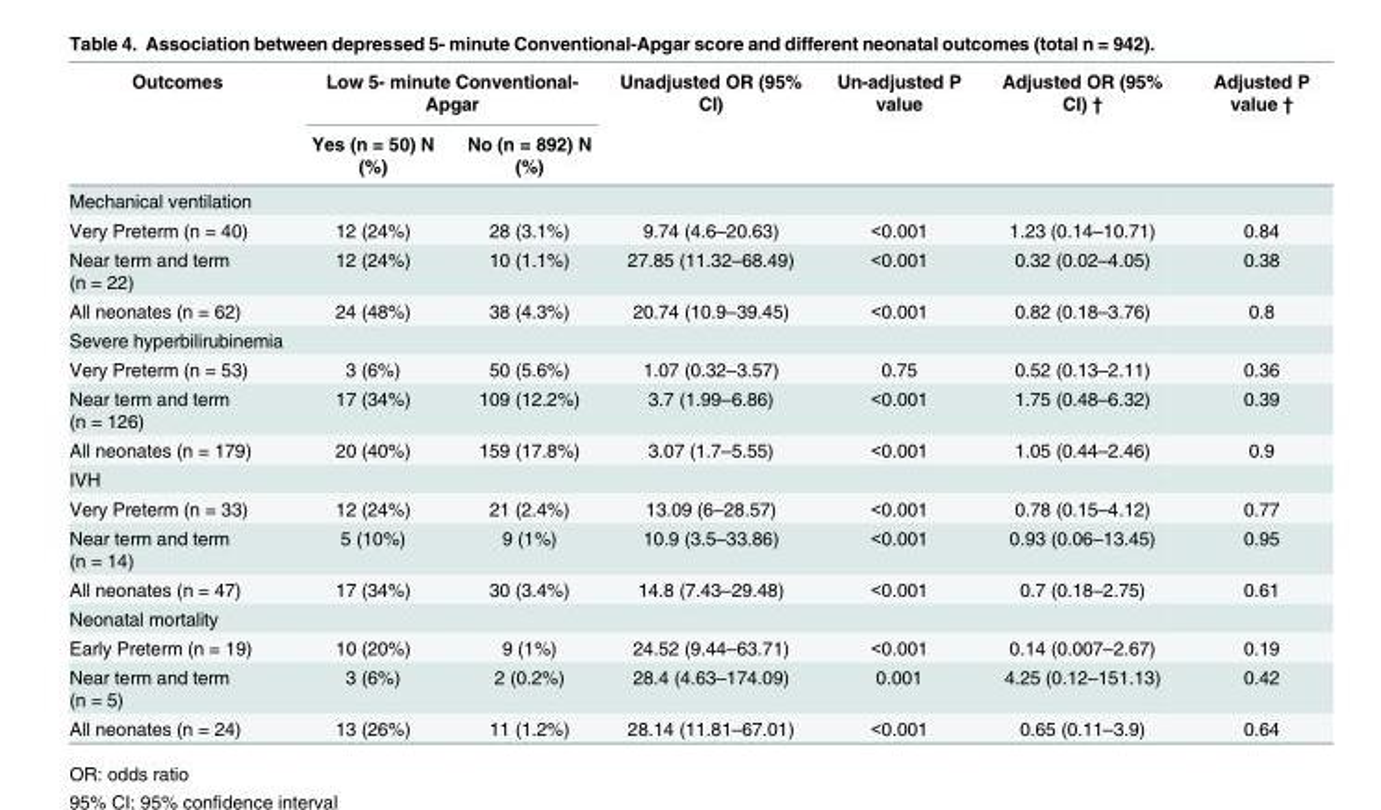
<table><thead><tr><td rowspan="2">Outcomes</td><td colspan="2">Low 5- minute Conventional- Apgar</td><td rowspan="2">Unadjusted OR (95% CI)</td><td rowspan="2">Un-adjusted P value</td><td rowspan="2">Adjusted OR (95% CI) †</td><td rowspan="2">Adjusted P value †</td></tr><tr><td>Yes (n = 50) N (%)</td><td>No (n = 892) N (%)</td></tr></thead><tbody><tr><td colspan="7">Mechanical ventilation</td></tr><tr><td>Very Preterm (n = 40)</td><td>12 (24%)</td><td>28 (3.1%)</td><td>9.74 (4.6–20.63)</td><td>&lt;0.001</td><td>1.23 (0.14–10.71)</td><td>0.84</td></tr><tr><td>Near term and term (n = 22)</td><td>12 (24%)</td><td>10 (1.1%)</td><td>27.85 (11.32–68.49)</td><td>&lt;0.001</td><td>0.32 (0.02–4.05)</td><td>0.38</td></tr><tr><td>All neonates (n = 62)</td><td>24 (48%)</td><td>38 (4.3%)</td><td>20.74 (10.9–39.45)</td><td>&lt;0.001</td><td>0.82 (0.18–3.76)</td><td>0.8</td></tr><tr><td colspan="7">Severe hyperbilirubinemia</td></tr><tr><td>Very Preterm (n = 53)</td><td>3 (6%)</td><td>50 (5.6%)</td><td>1.07 (0.32–3.57)</td><td>0.75</td><td>0.52 (0.13–2.11)</td><td>0.36</td></tr><tr><td>Near term and term (n = 126)</td><td>17 (34%)</td><td>109 (12.2%)</td><td>3.7 (1.99–6.86)</td><td>&lt;0.001</td><td>1.75 (0.48–6.32)</td><td>0.39</td></tr><tr><td>All neonates (n = 179)</td><td>20 (40%)</td><td>159 (17.8%)</td><td>3.07 (1.7–5.55)</td><td>&lt;0.001</td><td>1.05 (0.44–2.46)</td><td>0.9</td></tr><tr><td colspan="7">IVH</td></tr><tr><td>Very Preterm (n = 33)</td><td>12 (24%)</td><td>21 (2.4%)</td><td>13.09 (6–28.57)</td><td>&lt;0.001</td><td>0.78 (0.15–4.12)</td><td>0.77</td></tr><tr><td>Near term and term (n = 14)</td><td>5 (10%)</td><td>9 (1%)</td><td>10.9 (3.5–33.86)</td><td>&lt;0.001</td><td>0.93 (0.06–13.45)</td><td>0.95</td></tr><tr><td>All neonates (n = 47)</td><td>17 (34%)</td><td>30 (3.4%)</td><td>14.8 (7.43–29.48)</td><td>&lt;0.001</td><td>0.7 (0.18–2.75)</td><td>0.61</td></tr><tr><td colspan="7">Neonatal mortality</td></tr><tr><td>Early Preterm (n = 19)</td><td>10 (20%)</td><td>9 (1%)</td><td>24.52 (9.44–63.71)</td><td>&lt;0.001</td><td>0.14 (0.007–2.67)</td><td>0.19</td></tr><tr><td>Near term and term (n = 5)</td><td>3 (6%)</td><td>2 (0.2%)</td><td>28.4 (4.63–174.09)</td><td>0.001</td><td>4.25 (0.12–151.13)</td><td>0.42</td></tr><tr><td>All neonates (n = 24)</td><td>13 (26%)</td><td>11 (1.2%)</td><td>28.14 (11.81–67.01)</td><td>&lt;0.001</td><td>0.65 (0.11–3.9)</td><td>0.64</td></tr></tbody></table>